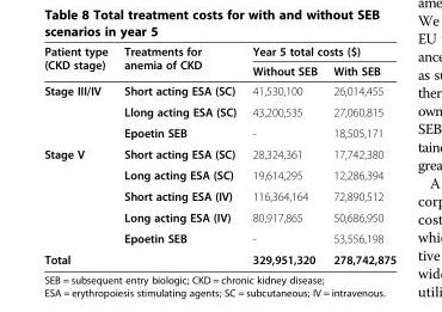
<table><thead><tr><td rowspan="2">Patient type (CKD stage)</td><td rowspan="2">Treatments for anemia of CKD</td><td colspan="2">Year 5 total costs ($)</td></tr><tr><td>Without SEB</td><td>With SEB</td></tr></thead><tbody><tr><td rowspan="3">Stage III/IV</td><td>Short acting ESA (SC)</td><td>41,530,100</td><td>26,014,455</td></tr><tr><td>Llong acting ESA (SC)</td><td>43,200,535</td><td>27,060,815</td></tr><tr><td>Epoetin SEB</td><td>-</td><td>18,505,171</td></tr><tr><td rowspan="5">Stage V</td><td>Short acting ESA (SC)</td><td>28,324,361</td><td>17,742,380</td></tr><tr><td>Long acting ESA (SC)</td><td>19,614,295</td><td>12,286,394</td></tr><tr><td>Short acting ESA (IV)</td><td>116,364,164</td><td>72,890,512</td></tr><tr><td>Long acting ESA (IV)</td><td>80,917,865</td><td>50,686,950</td></tr><tr><td>Epoetin SEB</td><td>-</td><td>53,556,198</td></tr><tr><td colspan="2">Total</td><td>329,951,320</td><td>278,742,875</td></tr></tbody></table>